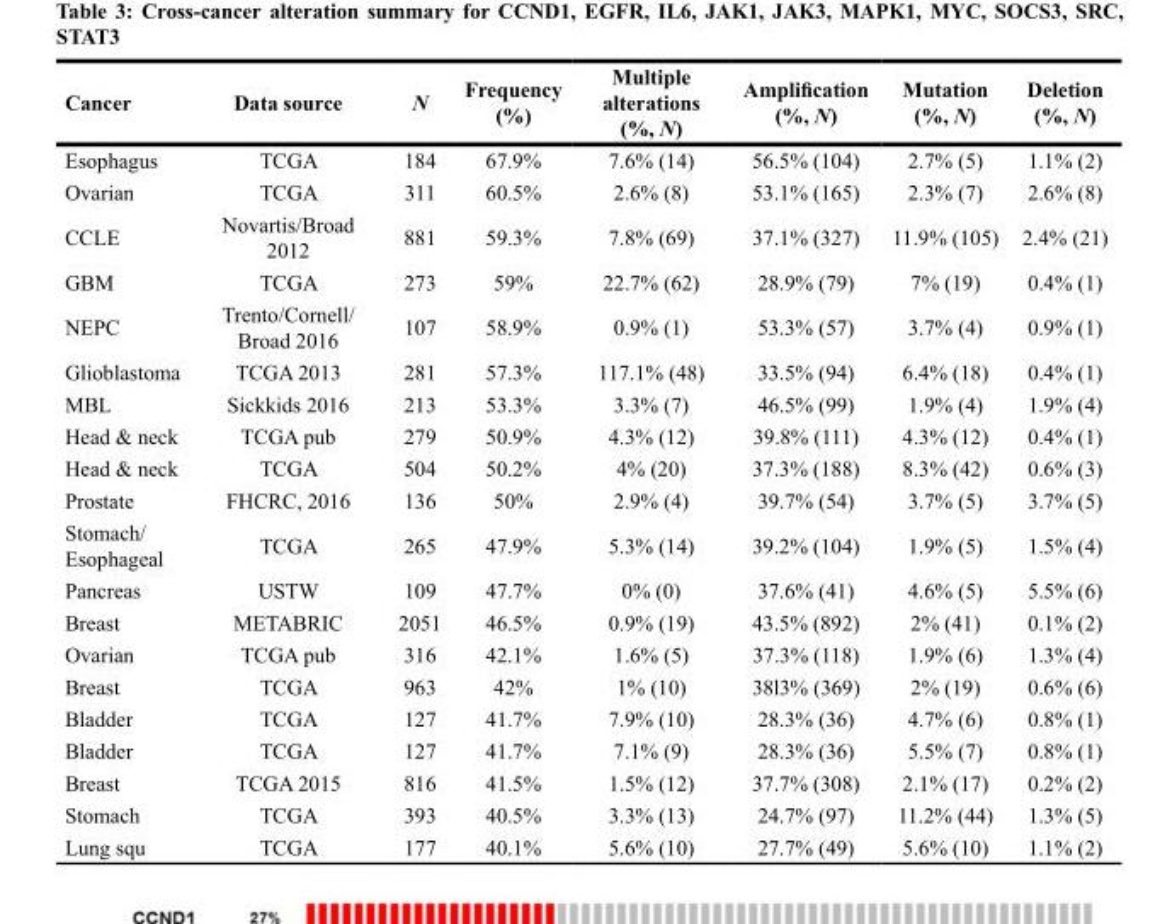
<table><thead><tr><td>Cancer</td><td>Data source</td><td>N</td><td>Frequency (%)</td><td>Multiple alterations (%, N)</td><td>Amplification (%, N)</td><td>Mutation (%, N)</td><td>Deletion (%, N)</td></tr></thead><tbody><tr><td>Esophagus</td><td>TCGA</td><td>184</td><td>67.9%</td><td>7.6% (14)</td><td>56.5% (104)</td><td>2.7% (5)</td><td>1.1% (2)</td></tr><tr><td>Ovarian</td><td>TCGA</td><td>311</td><td>60.5%</td><td>2.6% (8)</td><td>53.1% (165)</td><td>2.3% (7)</td><td>2.6% (8)</td></tr><tr><td>CCLE</td><td>Novartis/Broad 2012</td><td>881</td><td>59.3%</td><td>7.8% (69)</td><td>37.1% (327)</td><td>11.9% (105)</td><td>2.4% (21)</td></tr><tr><td>GBM</td><td>TCGA</td><td>273</td><td>59%</td><td>22.7% (62)</td><td>28.9% (79)</td><td>7% (19)</td><td>0.4% (1)</td></tr><tr><td>NEPC</td><td>Trento/Cornell/ Broad 2016</td><td>107</td><td>58.9%</td><td>0.9% (1)</td><td>53.3% (57)</td><td>3.7% (4)</td><td>0.9% (1)</td></tr><tr><td>Glioblastoma</td><td>TCGA 2013</td><td>281</td><td>57.3%</td><td>117.1% (48)</td><td>33.5% (94)</td><td>6.4% (18)</td><td>0.4% (1)</td></tr><tr><td>MBL</td><td>Sickkids 2016</td><td>213</td><td>53.3%</td><td>3.3% (7)</td><td>46.5% (99)</td><td>1.9% (4)</td><td>1.9% (4)</td></tr><tr><td>Head &amp; neck</td><td>TCGA pub</td><td>279</td><td>50.9%</td><td>4.3% (12)</td><td>39.8% (111)</td><td>4.3% (12)</td><td>0.4% (1)</td></tr><tr><td>Head &amp; neck</td><td>TCGA</td><td>504</td><td>50.2%</td><td>4% (20)</td><td>37.3% (188)</td><td>8.3% (42)</td><td>0.6% (3)</td></tr><tr><td>Prostate</td><td>FHCRC, 2016</td><td>136</td><td>50%</td><td>2.9% (4)</td><td>39.7% (54)</td><td>3.7% (5)</td><td>3.7% (5)</td></tr><tr><td>Stomach/ Esophageal</td><td>TCGA</td><td>265</td><td>47.9%</td><td>5.3% (14)</td><td>39.2% (104)</td><td>1.9% (5)</td><td>1.5% (4)</td></tr><tr><td>Pancreas</td><td>USTW</td><td>109</td><td>47.7%</td><td>0% (0)</td><td>37.6% (41)</td><td>4.6% (5)</td><td>5.5% (6)</td></tr><tr><td>Breast</td><td>METABRIC</td><td>2051</td><td>46.5%</td><td>0.9% (19)</td><td>43.5% (892)</td><td>2% (41)</td><td>0.1% (2)</td></tr><tr><td>Ovarian</td><td>TCGA pub</td><td>316</td><td>42.1%</td><td>1.6% (5)</td><td>37.3% (118)</td><td>1.9% (6)</td><td>1.3% (4)</td></tr><tr><td>Breast</td><td>TCGA</td><td>963</td><td>42%</td><td>1% (10)</td><td>38l3% (369)</td><td>2% (19)</td><td>0.6% (6)</td></tr><tr><td>Bladder</td><td>TCGA</td><td>127</td><td>41.7%</td><td>7.9% (10)</td><td>28.3% (36)</td><td>4.7% (6)</td><td>0.8% (1)</td></tr><tr><td>Bladder</td><td>TCGA</td><td>127</td><td>41.7%</td><td>7.1% (9)</td><td>28.3% (36)</td><td>5.5% (7)</td><td>0.8% (1)</td></tr><tr><td>Breast</td><td>TCGA 2015</td><td>816</td><td>41.5%</td><td>1.5% (12)</td><td>37.7% (308)</td><td>2.1% (17)</td><td>0.2% (2)</td></tr><tr><td>Stomach</td><td>TCGA</td><td>393</td><td>40.5%</td><td>3.3% (13)</td><td>24.7% (97)</td><td>11.2% (44)</td><td>1.3% (5)</td></tr><tr><td>Lung squ</td><td>TCGA</td><td>177</td><td>40.1%</td><td>5.6% (10)</td><td>27.7% (49)</td><td>5.6% (10)</td><td>1.1% (2)</td></tr></tbody></table>